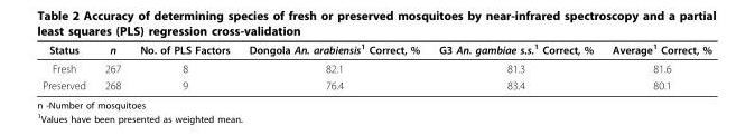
<table><thead><tr><td>Status</td><td>n</td><td>No. of PLS Factors</td><td>Dongola An. arabiensis<sup>1</sup> Correct, %</td><td>G3 An. gambiae s.s.<sup>1</sup> Correct, %</td><td>Average<sup>1</sup> Correct, %</td></tr></thead><tbody><tr><td>Fresh</td><td>267</td><td>8</td><td>82.1</td><td>81.3</td><td>81.6</td></tr><tr><td>Preserved</td><td>268</td><td>9</td><td>76.4</td><td>83.4</td><td>80.1</td></tr></tbody></table>